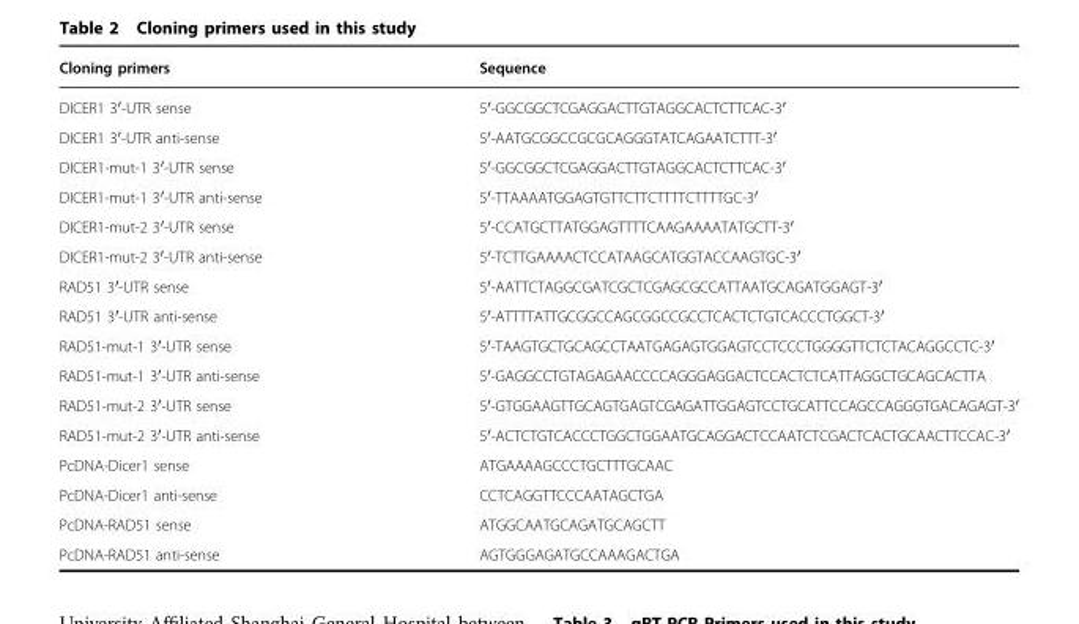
<table><thead><tr><td>Cloning primers</td><td>Sequence</td></tr></thead><tbody><tr><td>DICER1 3′-UTR sense</td><td>5′-GGCGGCTCGAGGACTTGTAGGCACTCTTCAC-3′</td></tr><tr><td>DICER1 3′-UTR anti-sense</td><td>5′-AATGCGGCCGCGCAGGGTATCAGAATCTTT-3′</td></tr><tr><td>DICER1-mut-1 3′-UTR sense</td><td>5′-GGCGGCTCGAGGACTTGTAGGCACTCTTCAC-3′</td></tr><tr><td>DICER1-mut-1 3′-UTR anti-sense</td><td>5′-TTAAAATGGAGTGTTCTTCTTTTCTTTTGC-3′</td></tr><tr><td>DICER1-mut-2 3′-UTR sense</td><td>5′-CCATGCTTATGGAGTTTTCAAGAAAATATGCTT-3′</td></tr><tr><td>DICER1-mut-2 3′-UTR anti-sense</td><td>5′-TCTTGAAAACTCCATAAGCATGGTACCAAGTGC-3′</td></tr><tr><td>RAD51 3′-UTR sense</td><td>5′-AATTCTAGGCGATCGCTCGAGCGCCATTAATGCAGATGGAGT-3′</td></tr><tr><td>RAD51 3′-UTR anti-sense</td><td>5′-ATTTTATTGCGGCCAGCGGCCGCCTCACTCTGTCACCCTGGCT-3′</td></tr><tr><td>RAD51-mut-1 3′-UTR sense</td><td>5′-TAAGTGCTGCAGCCTAATGAGAGTGGAGTCCTCCCTGGGGTTCTCTACAGGCCTC-3′</td></tr><tr><td>RAD51-mut-1 3′-UTR anti-sense</td><td>5′-GAGGCCTGTAGAGAACCCCAGGGAGGACTCCACTCTCATTAGGCTGCAGCACTTA</td></tr><tr><td>RAD51-mut-2 3′-UTR sense</td><td>5′-GTGGAAGTTGCAGTGAGTCGAGATTGGAGTCCTGCATTCCAGCCAGGGTGACAGAGT-3′</td></tr><tr><td>RAD51-mut-2 3′-UTR anti-sense</td><td>5′-ACTCTGTCACCCTGGCTGGAATGCAGGACTCCAATCTCGACTCACTGCAACTTCCAC-3′</td></tr><tr><td>PcDNA-Dicer1 sense</td><td>ATGAAAAGCCCTGCTTTGCAAC</td></tr><tr><td>PcDNA-Dicer1 anti-sense</td><td>CCTCAGGTTCCCAATAGCTGA</td></tr><tr><td>PcDNA-RAD51 sense</td><td>ATGGCAATGCAGATGCAGCTT</td></tr><tr><td>PcDNA-RAD51 anti-sense</td><td>AGTGGGAGATGCCAAAGACTGA</td></tr></tbody></table>